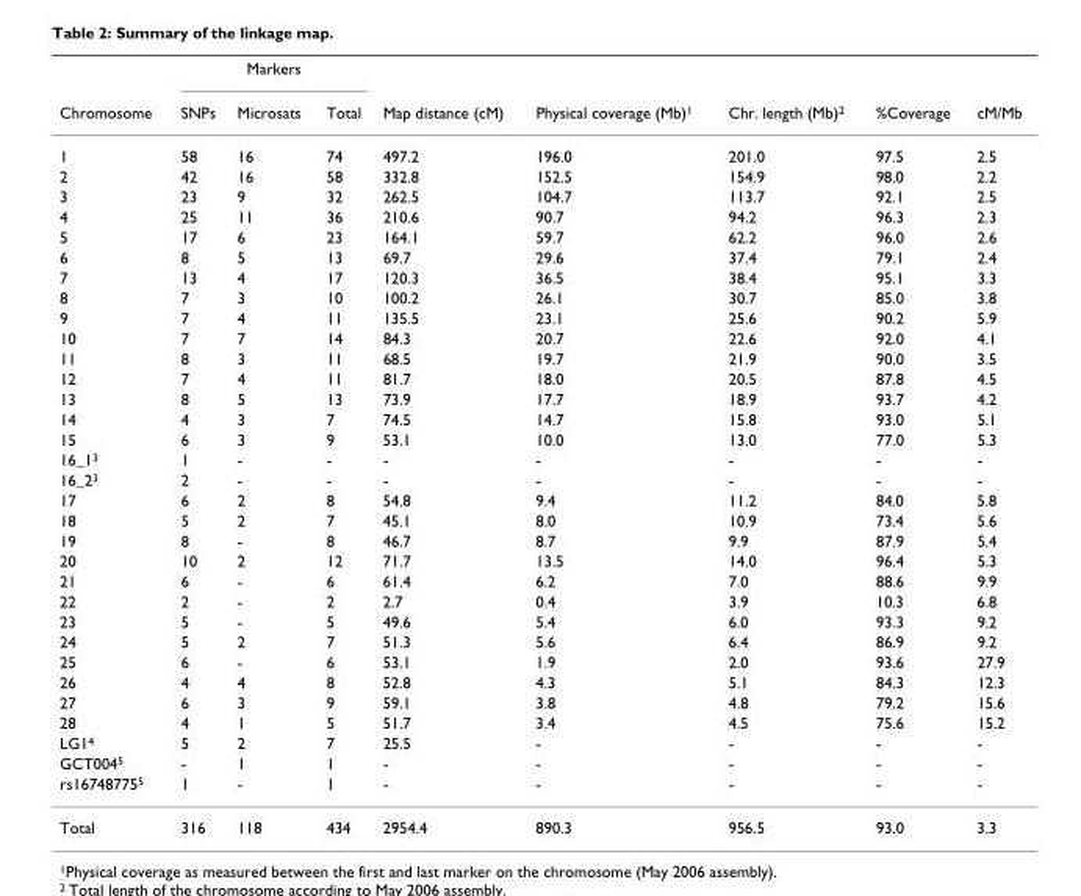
<table><thead><tr><td rowspan="2">Chromosome</td><td colspan="3">Markers</td><td rowspan="2">Map distance (cM)</td><td rowspan="2">Physical coverage (Mb)<sup>1</sup></td><td rowspan="2">Chr. length (Mb)<sup>2</sup></td><td rowspan="2">%Coverage</td><td rowspan="2">cM/Mb</td></tr><tr><td>SNPs</td><td>Microsats</td><td>Total</td></tr></thead><tbody><tr><td>1</td><td>58</td><td>16</td><td>74</td><td>497.2</td><td>196.0</td><td>201.0</td><td>97.5</td><td>2.5</td></tr><tr><td>2</td><td>42</td><td>16</td><td>58</td><td>332.8</td><td>152.5</td><td>154.9</td><td>98.0</td><td>2.2</td></tr><tr><td>3</td><td>23</td><td>9</td><td>32</td><td>262.5</td><td>104.7</td><td>113.7</td><td>92.1</td><td>2.5</td></tr><tr><td>4</td><td>25</td><td>11</td><td>36</td><td>210.6</td><td>90.7</td><td>94.2</td><td>96.3</td><td>2.3</td></tr><tr><td>5</td><td>17</td><td>6</td><td>23</td><td>164.1</td><td>59.7</td><td>62.2</td><td>96.0</td><td>2.6</td></tr><tr><td>6</td><td>8</td><td>5</td><td>13</td><td>69.7</td><td>29.6</td><td>37.4</td><td>79.1</td><td>2.4</td></tr><tr><td>7</td><td>13</td><td>4</td><td>17</td><td>120.3</td><td>36.5</td><td>38.4</td><td>95.1</td><td>3.3</td></tr><tr><td>8</td><td>7</td><td>3</td><td>10</td><td>100.2</td><td>26.1</td><td>30.7</td><td>85.0</td><td>3.8</td></tr><tr><td>9</td><td>7</td><td>4</td><td>11</td><td>135.5</td><td>23.1</td><td>25.6</td><td>90.2</td><td>5.9</td></tr><tr><td>10</td><td>7</td><td>7</td><td>14</td><td>84.3</td><td>20.7</td><td>22.6</td><td>92.0</td><td>4.1</td></tr><tr><td>11</td><td>8</td><td>3</td><td>11</td><td>68.5</td><td>19.7</td><td>21.9</td><td>90.0</td><td>3.5</td></tr><tr><td>12</td><td>7</td><td>4</td><td>11</td><td>81.7</td><td>18.0</td><td>20.5</td><td>87.8</td><td>4.5</td></tr><tr><td>13</td><td>8</td><td>5</td><td>13</td><td>73.9</td><td>17.7</td><td>18.9</td><td>93.7</td><td>4.2</td></tr><tr><td>14</td><td>4</td><td>3</td><td>7</td><td>74.5</td><td>14.7</td><td>15.8</td><td>93.0</td><td>5.1</td></tr><tr><td>15</td><td>6</td><td>3</td><td>9</td><td>53.1</td><td>10.0</td><td>13.0</td><td>77.0</td><td>5.3</td></tr><tr><td>16_1<sup>3</sup></td><td>1</td><td>-</td><td>-</td><td>-</td><td>-</td><td>-</td><td>-</td><td>-</td></tr><tr><td>16_2<sup>3</sup></td><td>2</td><td>-</td><td>-</td><td>-</td><td>-</td><td>-</td><td>-</td><td>-</td></tr><tr><td>17</td><td>6</td><td>2</td><td>8</td><td>54.8</td><td>9.4</td><td>11.2</td><td>84.0</td><td>5.8</td></tr><tr><td>18</td><td>5</td><td>2</td><td>7</td><td>45.1</td><td>8.0</td><td>10.9</td><td>73.4</td><td>5.6</td></tr><tr><td>19</td><td>8</td><td>-</td><td>8</td><td>46.7</td><td>8.7</td><td>9.9</td><td>87.9</td><td>5.4</td></tr><tr><td>20</td><td>10</td><td>2</td><td>12</td><td>71.7</td><td>13.5</td><td>14.0</td><td>96.4</td><td>5.3</td></tr><tr><td>21</td><td>6</td><td>-</td><td>6</td><td>61.4</td><td>6.2</td><td>7.0</td><td>88.6</td><td>9.9</td></tr><tr><td>22</td><td>2</td><td>-</td><td>2</td><td>2.7</td><td>0.4</td><td>3.9</td><td>10.3</td><td>6.8</td></tr><tr><td>23</td><td>5</td><td>-</td><td>5</td><td>49.6</td><td>5.4</td><td>6.0</td><td>93.3</td><td>9.2</td></tr><tr><td>24</td><td>5</td><td>2</td><td>7</td><td>51.3</td><td>5.6</td><td>6.4</td><td>86.9</td><td>9.2</td></tr><tr><td>25</td><td>6</td><td>-</td><td>6</td><td>53.1</td><td>1.9</td><td>2.0</td><td>93.6</td><td>27.9</td></tr><tr><td>26</td><td>4</td><td>4</td><td>8</td><td>52.8</td><td>4.3</td><td>5.1</td><td>84.3</td><td>12.3</td></tr><tr><td>27</td><td>6</td><td>3</td><td>9</td><td>59.1</td><td>3.8</td><td>4.8</td><td>79.2</td><td>15.6</td></tr><tr><td>28</td><td>4</td><td>1</td><td>5</td><td>51.7</td><td>3.4</td><td>4.5</td><td>75.6</td><td>15.2</td></tr><tr><td>LG1<sup>4</sup></td><td>5</td><td>2</td><td>7</td><td>25.5</td><td>-</td><td>-</td><td>-</td><td>-</td></tr><tr><td>GCT004<sup>5</sup></td><td>-</td><td>1</td><td>1</td><td>-</td><td>-</td><td>-</td><td>-</td><td>-</td></tr><tr><td>rs16748775<sup>5</sup></td><td>1</td><td>-</td><td>1</td><td>-</td><td>-</td><td>-</td><td>-</td><td>-</td></tr><tr><td>Total</td><td>316</td><td>118</td><td>434</td><td>2954.4</td><td>890.3</td><td>956.5</td><td>93.0</td><td>3.3</td></tr></tbody></table>